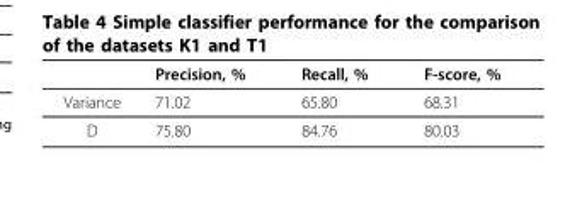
<table><thead><tr><td></td><td>Precision, %</td><td>Recall, %</td><td>F-score, %</td></tr></thead><tbody><tr><td>Variance</td><td>71.02</td><td>65.80</td><td>68.31</td></tr><tr><td>D</td><td>75.80</td><td>84.76</td><td>80.03</td></tr></tbody></table>